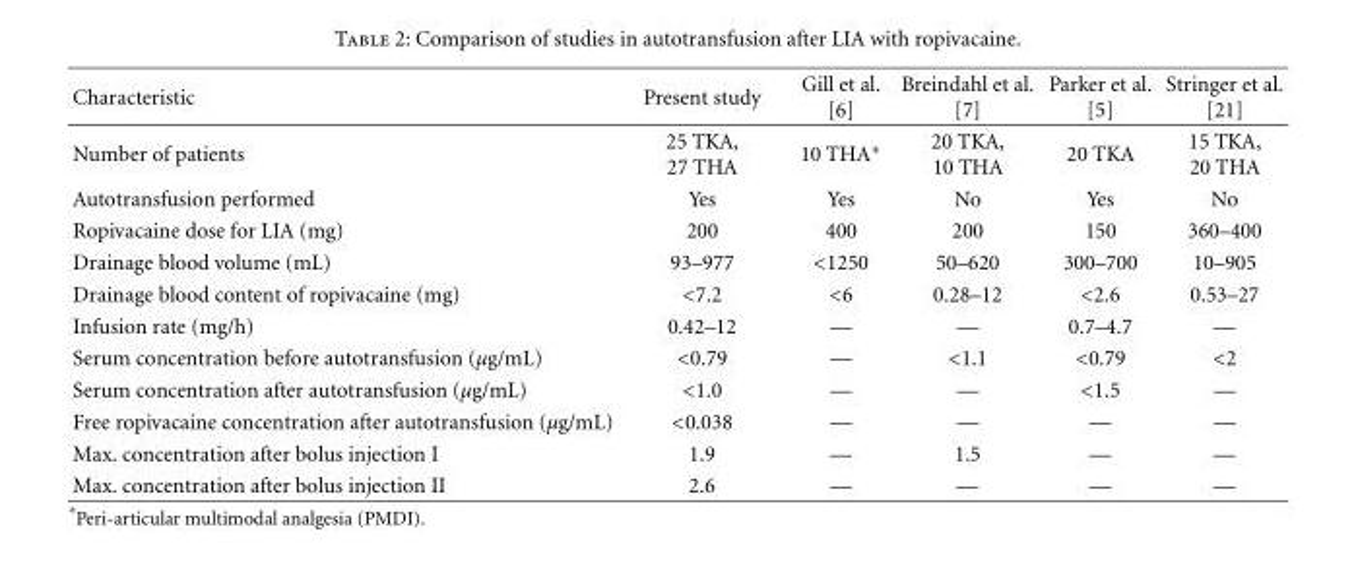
<table><thead><tr><td>Characteristic</td><td>Present study</td><td>Gill et al. [6]</td><td>Breindahl et al. [7]</td><td>Parker et al. [5]</td><td>Stringer et al. [21]</td></tr></thead><tbody><tr><td>Number of patients</td><td>25 TKA, 27 THA</td><td>10 THA∗</td><td>20 TKA, 10 THA</td><td>20 TKA</td><td>15 TKA, 20 THA</td></tr><tr><td>Autotransfusion performed</td><td>Yes</td><td>Yes</td><td>No</td><td>Yes</td><td>No</td></tr><tr><td>Ropivacaine dose for LIA (mg)</td><td>200</td><td>400</td><td>200</td><td>150</td><td>360–400</td></tr><tr><td>Drainage blood volume (mL)</td><td>93–977</td><td>&lt;1250</td><td>50–620</td><td>300–700</td><td>10–905</td></tr><tr><td>Drainage blood content of ropivacaine (mg)</td><td>&lt;7.2</td><td>&lt;6</td><td>0.28–12</td><td>&lt;2.6</td><td>0.53–27</td></tr><tr><td>Infusion rate (mg/h)</td><td>0.42–12</td><td>—</td><td>—</td><td>0.7–4.7</td><td>—</td></tr><tr><td>Serum concentration before autotransfusion (µg/mL)</td><td>&lt;0.79</td><td>—</td><td>&lt;1.1</td><td>&lt;0.79</td><td>&lt;2</td></tr><tr><td>Serum concentration after autotransfusion (µg/mL)</td><td>&lt;1.0</td><td>—</td><td>—</td><td>&lt;1.5</td><td>—</td></tr><tr><td>Free ropivacaine concentration after autotransfusion (µg/mL)</td><td>&lt;0.038</td><td>—</td><td>—</td><td>—</td><td>—</td></tr><tr><td>Max. concentration after bolus injection I</td><td>1.9</td><td>—</td><td>1.5</td><td>—</td><td>—</td></tr><tr><td>Max. concentration after bolus injection II</td><td>2.6</td><td>—</td><td>—</td><td>—</td><td>—</td></tr></tbody></table>